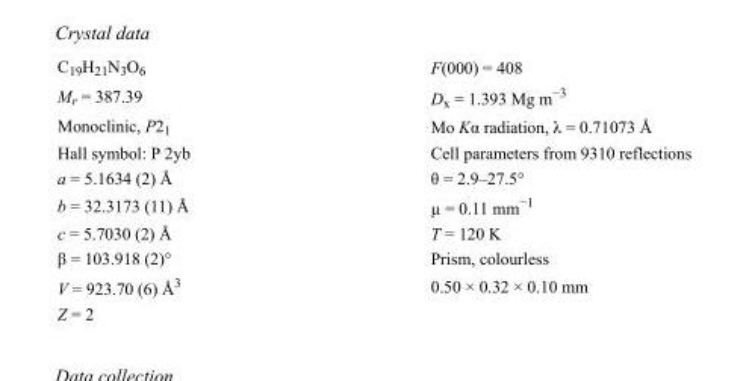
<table><tbody><tr><td>C<sub>19</sub>H<sub>21</sub>N<sub>3</sub>O<sub>6</sub></td><td>F(000) = 408</td></tr><tr><td>M<sub>r</sub> = 387.39</td><td>D<sub>x</sub> = 1.393 Mg m<sup>−3</sup></td></tr><tr><td>Monoclinic, P2<sub>1</sub></td><td>Mo Kα radiation, λ = 0.71073 Å</td></tr><tr><td>Hall symbol: P 2yb</td><td>Cell parameters from 9310 reflections</td></tr><tr><td>a = 5.1634 (2) Å</td><td>θ = 2.9–27.5°</td></tr><tr><td>b = 32.3173 (11) Å</td><td>µ = 0.11 mm<sup>−1</sup></td></tr><tr><td>c = 5.7030 (2) Å</td><td>T = 120 K</td></tr><tr><td>β = 103.918 (2)°</td><td>Prism, colourless</td></tr><tr><td>V = 923.70 (6) Å<sup>3</sup></td><td>0.50 × 0.32 × 0.10 mm</td></tr><tr><td>Z = 2</td><td></td></tr></tbody></table>